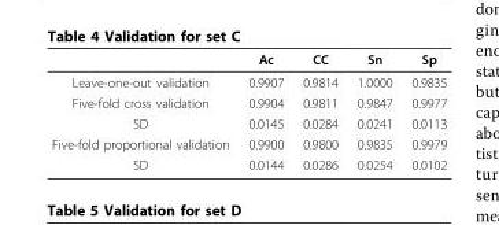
<table><thead><tr><td></td><td>Ac</td><td>CC</td><td>Sn</td><td>Sp</td></tr></thead><tbody><tr><td>Leave-one-out validation</td><td>0.9907</td><td>0.9814</td><td>1.0000</td><td>0.9835</td></tr><tr><td>Five-fold cross validation</td><td>0.9904</td><td>0.9811</td><td>0.9847</td><td>0.9977</td></tr><tr><td>SD</td><td>0.0145</td><td>0.0284</td><td>0.0241</td><td>0.0113</td></tr><tr><td>Five-fold proportional validation</td><td>0.9900</td><td>0.9800</td><td>0.9835</td><td>0.9979</td></tr><tr><td>SD</td><td>0.0144</td><td>0.0286</td><td>0.0254</td><td>0.0102</td></tr></tbody></table>